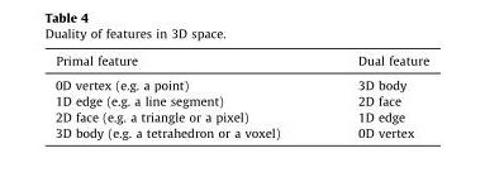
<table><thead><tr><td>Primal feature</td><td>Dual feature</td></tr></thead><tbody><tr><td>0D vertex (e.g. a point)</td><td>3D body</td></tr><tr><td>1D edge (e.g. a line segment)</td><td>2D face</td></tr><tr><td>2D face (e.g. a triangle or a pixel)</td><td>1D edge</td></tr><tr><td>3D body (e.g. a tetrahedron or a voxel)</td><td>0D vertex</td></tr></tbody></table>